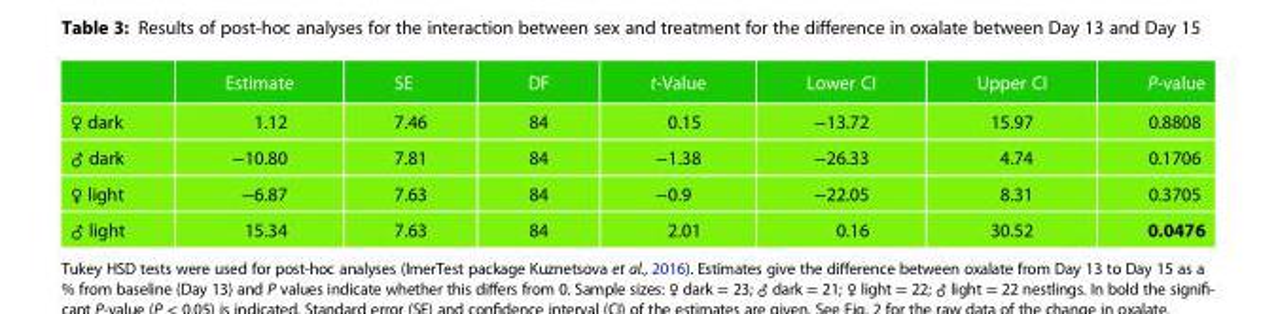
<table><thead><tr><td></td><td>Estimate</td><td>SE</td><td>DF</td><td>t-Value</td><td>Lower CI</td><td>Upper CI</td><td>P-value</td></tr></thead><tbody><tr><td>♀ dark</td><td>1.12</td><td>7.46</td><td>84</td><td>0.15</td><td>−13.72</td><td>15.97</td><td>0.8808</td></tr><tr><td>♂ dark</td><td>−10.80</td><td>7.81</td><td>84</td><td>−1.38</td><td>−26.33</td><td>4.74</td><td>0.1706</td></tr><tr><td>♀ light</td><td>−6.87</td><td>7.63</td><td>84</td><td>−0.9</td><td>−22.05</td><td>8.31</td><td>0.3705</td></tr><tr><td>♂ light</td><td>15.34</td><td>7.63</td><td>84</td><td>2.01</td><td>0.16</td><td>30.52</td><td>0.0476</td></tr></tbody></table>